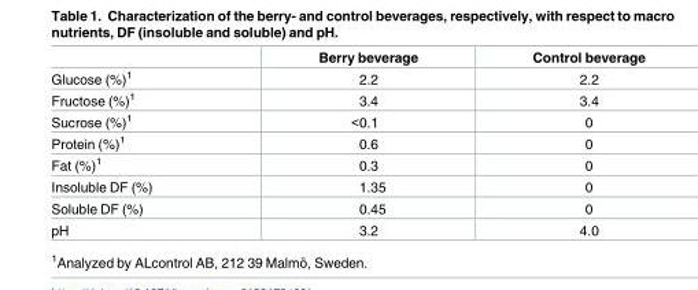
<table><thead><tr><td></td><td>Berry beverage</td><td>Control beverage</td></tr></thead><tbody><tr><td>Glucose (%)<sup>1</sup></td><td>2.2</td><td>2.2</td></tr><tr><td>Fructose (%)<sup>1</sup></td><td>3.4</td><td>3.4</td></tr><tr><td>Sucrose (%)<sup>1</sup></td><td>&lt;0.1</td><td>0</td></tr><tr><td>Protein (%)<sup>1</sup></td><td>0.6</td><td>0</td></tr><tr><td>Fat (%)<sup>1</sup></td><td>0.3</td><td>0</td></tr><tr><td>Insoluble DF (%)</td><td>1.35</td><td>0</td></tr><tr><td>Soluble DF (%)</td><td>0.45</td><td>0</td></tr><tr><td>pH</td><td>3.2</td><td>4.0</td></tr></tbody></table>